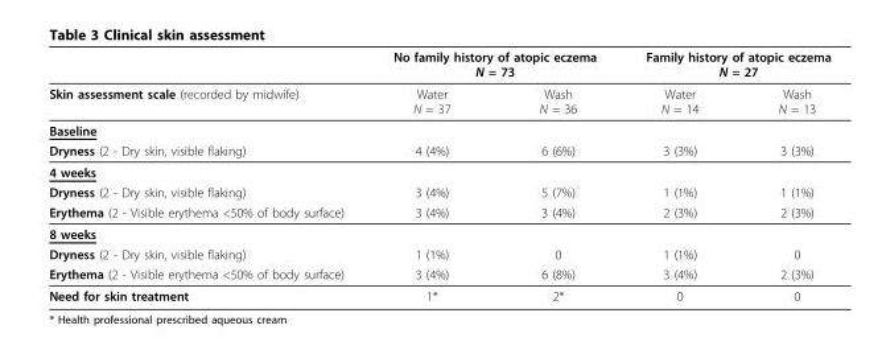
<table><thead><tr><td rowspan="2">Skin assessment scale (recorded by midwife)</td><td colspan="2">No family history of atopic eczema N = 73</td><td colspan="2">Family history of atopic eczema N = 27</td></tr><tr><td>Water N = 37</td><td>Wash N = 36</td><td>Water N = 14</td><td>Wash N = 13</td></tr></thead><tbody><tr><td colspan="5">Baseline</td></tr><tr><td>Dryness (2 - Dry skin, visible flaking)</td><td>4 (4%)</td><td>6 (6%)</td><td>3 (3%)</td><td>3 (3%)</td></tr><tr><td colspan="5">4 weeks</td></tr><tr><td>Dryness (2 - Dry skin, visible flaking)</td><td>3 (4%)</td><td>5 (7%)</td><td>1 (1%)</td><td>1 (1%)</td></tr><tr><td>Erythema (2 - Visible erythema &lt;50% of body surface)</td><td>3 (4%)</td><td>3 (4%)</td><td>2 (3%)</td><td>2 (3%)</td></tr><tr><td colspan="5">8 weeks</td></tr><tr><td>Dryness (2 - Dry skin, visible flaking)</td><td>1 (1%)</td><td>0</td><td>1 (1%)</td><td>0</td></tr><tr><td>Erythema (2 - Visible erythema &lt;50% of body surface)</td><td>3 (4%)</td><td>6 (8%)</td><td>3 (4%)</td><td>2 (3%)</td></tr><tr><td>Need for skin treatment</td><td>1*</td><td>2*</td><td>0</td><td>0</td></tr></tbody></table>